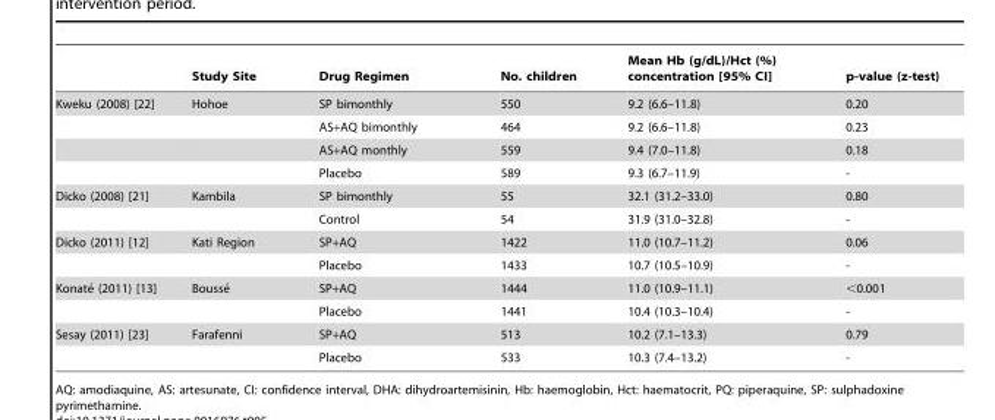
<table><thead><tr><td></td><td>Study Site</td><td>Drug Regimen</td><td>No. children</td><td>Mean Hb (g/dL)/Hct (%) concentration [95% CI]</td><td>p-value (z-test)</td></tr></thead><tbody><tr><td rowspan="4">Kweku (2008) [22]</td><td>Hohoe</td><td>SP bimonthly</td><td>550</td><td>9.2 (6.6–11.8)</td><td>0.20</td></tr><tr><td></td><td>AS+AQ bimonthly</td><td>464</td><td>9.2 (6.6–11.8)</td><td>0.23</td></tr><tr><td></td><td>AS+AQ monthly</td><td>559</td><td>9.4 (7.0–11.8)</td><td>0.18</td></tr><tr><td></td><td>Placebo</td><td>589</td><td>9.3 (6.7–11.9)</td><td>-</td></tr><tr><td rowspan="2">Dicko (2008) [21]</td><td>Kambila</td><td>SP bimonthly</td><td>55</td><td>32.1 (31.2–33.0)</td><td>0.80</td></tr><tr><td></td><td>Control</td><td>54</td><td>31.9 (31.0–32.8)</td><td>-</td></tr><tr><td rowspan="2">Dicko (2011) [12]</td><td>Kati Region</td><td>SP+AQ</td><td>1422</td><td>11.0 (10.7–11.2)</td><td>0.06</td></tr><tr><td></td><td>Placebo</td><td>1433</td><td>10.7 (10.5–10.9)</td><td>-</td></tr><tr><td rowspan="2">Konate´ (2011) [13]</td><td>Bousse´</td><td>SP+AQ</td><td>1444</td><td>11.0 (10.9–11.1)</td><td>&lt;0.001</td></tr><tr><td></td><td>Placebo</td><td>1441</td><td>10.4 (10.3–10.4)</td><td>-</td></tr><tr><td rowspan="2">Sesay (2011) [23]</td><td>Farafenni</td><td>SP+AQ</td><td>513</td><td>10.2 (7.1–13.3)</td><td>0.79</td></tr><tr><td></td><td>Placebo</td><td>533</td><td>10.3 (7.4–13.2)</td><td>-</td></tr></tbody></table>